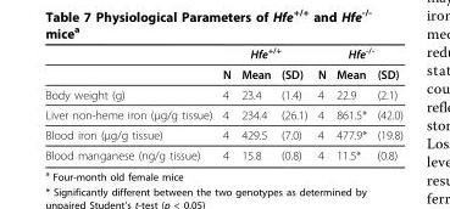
<table><thead><tr><td rowspan="2"></td><td colspan="3">Hfe<sup>+/+</sup></td><td colspan="3">Hfe<sup>-/-</sup></td></tr><tr><td>N</td><td>Mean</td><td>(SD)</td><td>N</td><td>Mean</td><td>(SD)</td></tr></thead><tbody><tr><td>Body weight (g)</td><td>4</td><td>23.4</td><td>(1.4)</td><td>4</td><td>22.9</td><td>(2.1)</td></tr><tr><td>Liver non-heme iron (μg/g tissue)</td><td>4</td><td>234.4</td><td>(26.1)</td><td>4</td><td>861.5*</td><td>(42.0)</td></tr><tr><td>Blood iron (μg/g tissue)</td><td>4</td><td>429.5</td><td>(7.0)</td><td>4</td><td>477.9*</td><td>(19.8)</td></tr><tr><td>Blood manganese (ng/g tissue)</td><td>4</td><td>15.8</td><td>(0.8)</td><td>4</td><td>11.5*</td><td>(0.8)</td></tr></tbody></table>